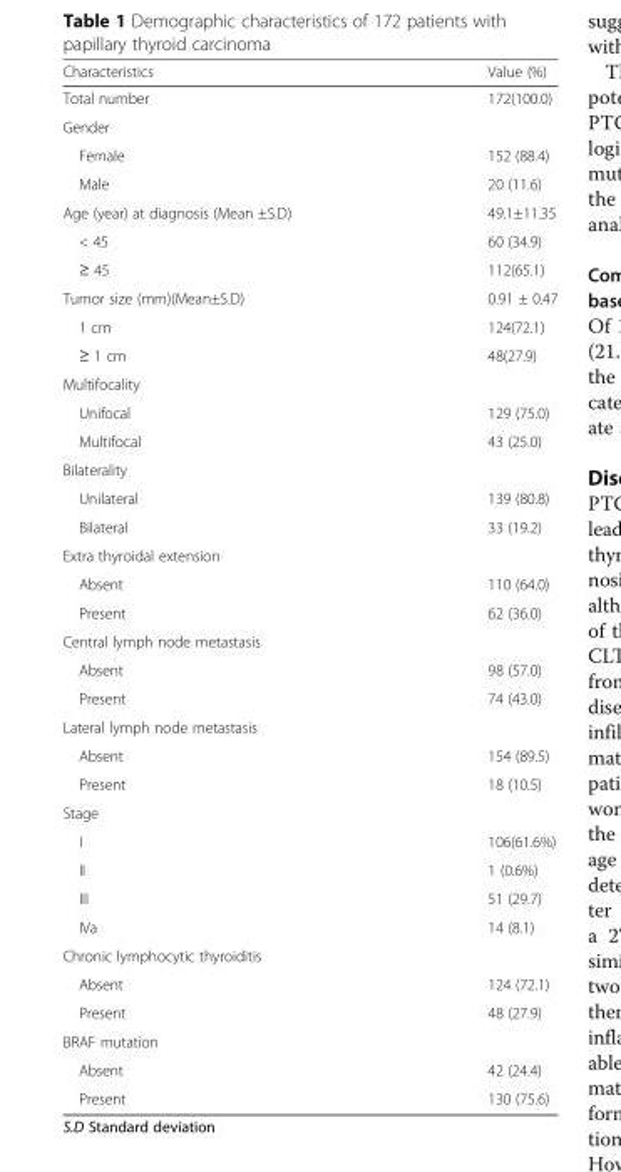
<table><thead><tr><td>Characteristics</td><td>Value (%)</td></tr></thead><tbody><tr><td>Total number</td><td>172(100.0)</td></tr><tr><td colspan="2">Gender</td></tr><tr><td>Female</td><td>152 (88.4)</td></tr><tr><td>Male</td><td>20 (11.6)</td></tr><tr><td>Age (year) at diagnosis (Mean ±S.D)</td><td>49.1±11.35</td></tr><tr><td>&lt; 45</td><td>60 (34.9)</td></tr><tr><td>≥ 45</td><td>112(65.1)</td></tr><tr><td>Tumor size (mm)(Mean±S.D)</td><td>0.91 ± 0.47</td></tr><tr><td>1 cm</td><td>124(72.1)</td></tr><tr><td>≥ 1 cm</td><td>48(27.9)</td></tr><tr><td colspan="2">Multifocality</td></tr><tr><td>Unifocal</td><td>129 (75.0)</td></tr><tr><td>Multifocal</td><td>43 (25.0)</td></tr><tr><td colspan="2">Bilaterality</td></tr><tr><td>Unilateral</td><td>139 (80.8)</td></tr><tr><td>Bilateral</td><td>33 (19.2)</td></tr><tr><td colspan="2">Extra thyroidal extension</td></tr><tr><td>Absent</td><td>110 (64.0)</td></tr><tr><td>Present</td><td>62 (36.0)</td></tr><tr><td colspan="2">Central lymph node metastasis</td></tr><tr><td>Absent</td><td>98 (57.0)</td></tr><tr><td>Present</td><td>74 (43.0)</td></tr><tr><td colspan="2">Lateral lymph node metastasis</td></tr><tr><td>Absent</td><td>154 (89.5)</td></tr><tr><td>Present</td><td>18 (10.5)</td></tr><tr><td colspan="2">Stage</td></tr><tr><td>I</td><td>106(61.6%)</td></tr><tr><td>II</td><td>1 (0.6%)</td></tr><tr><td>III</td><td>51 (29.7)</td></tr><tr><td>IVa</td><td>14 (8.1)</td></tr><tr><td colspan="2">Chronic lymphocytic thyroiditis</td></tr><tr><td>Absent</td><td>124 (72.1)</td></tr><tr><td>Present</td><td>48 (27.9)</td></tr><tr><td colspan="2">BRAF mutation</td></tr><tr><td>Absent</td><td>42 (24.4)</td></tr><tr><td>Present</td><td>130 (75.6)</td></tr></tbody></table>